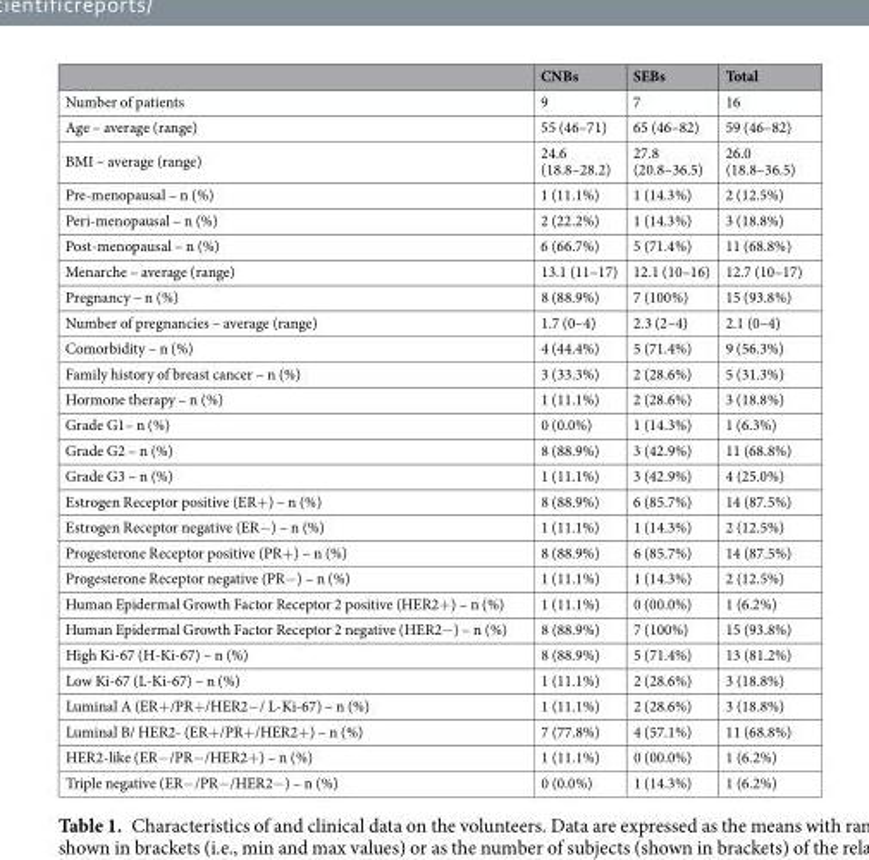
<table><thead><tr><td></td><td>CNBs</td><td>SEBs</td><td>Total</td></tr></thead><tbody><tr><td>Number of patients</td><td>9</td><td>7</td><td>16</td></tr><tr><td>Age – average (range)</td><td>55 (46–71)</td><td>65 (46–82)</td><td>59 (46–82)</td></tr><tr><td>BMI – average (range)</td><td>24.6 (18.8–28.2)</td><td>27.8 (20.8–36.5)</td><td>26.0 (18.8–36.5)</td></tr><tr><td>Pre-menopausal – n (%)</td><td>1 (11.1%)</td><td>1 (14.3%)</td><td>2 (12.5%)</td></tr><tr><td>Peri-menopausal – n (%)</td><td>2 (22.2%)</td><td>1 (14.3%)</td><td>3 (18.8%)</td></tr><tr><td>Post-menopausal – n (%)</td><td>6 (66.7%)</td><td>5 (71.4%)</td><td>11 (68.8%)</td></tr><tr><td>Menarche – average (range)</td><td>13.1 (11–17)</td><td>12.1 (10–16)</td><td>12.7 (10–17)</td></tr><tr><td>Pregnancy – n (%)</td><td>8 (88.9%)</td><td>7 (100%)</td><td>15 (93.8%)</td></tr><tr><td>Number of pregnancies – average (range)</td><td>1.7 (0–4)</td><td>2.3 (2–4)</td><td>2.1 (0–4)</td></tr><tr><td>Comorbidity – n (%)</td><td>4 (44.4%)</td><td>5 (71.4%)</td><td>9 (56.3%)</td></tr><tr><td>Family history of breast cancer – n (%)</td><td>3 (33.3%)</td><td>2 (28.6%)</td><td>5 (31.3%)</td></tr><tr><td>Hormone therapy – n (%)</td><td>1 (11.1%)</td><td>2 (28.6%)</td><td>3 (18.8%)</td></tr><tr><td>Grade G1– n (%)</td><td>0 (0.0%)</td><td>1 (14.3%)</td><td>1 (6.3%)</td></tr><tr><td>Grade G2 – n (%)</td><td>8 (88.9%)</td><td>3 (42.9%)</td><td>11 (68.8%)</td></tr><tr><td>Grade G3 – n (%)</td><td>1 (11.1%)</td><td>3 (42.9%)</td><td>4 (25.0%)</td></tr><tr><td>Estrogen Receptor positive (ER+) – n (%)</td><td>8 (88.9%)</td><td>6 (85.7%)</td><td>14 (87.5%)</td></tr><tr><td>Estrogen Receptor negative (ER−) – n (%)</td><td>1 (11.1%)</td><td>1 (14.3%)</td><td>2 (12.5%)</td></tr><tr><td>Progesterone Receptor positive (PR+) – n (%)</td><td>8 (88.9%)</td><td>6 (85.7%)</td><td>14 (87.5%)</td></tr><tr><td>Progesterone Receptor negative (PR−) – n (%)</td><td>1 (11.1%)</td><td>1 (14.3%)</td><td>2 (12.5%)</td></tr><tr><td>Human Epidermal Growth Factor Receptor 2 positive (HER2+) – n (%)</td><td>1 (11.1%)</td><td>0 (00.0%)</td><td>1 (6.2%)</td></tr><tr><td>Human Epidermal Growth Factor Receptor 2 negative (HER2−) – n (%)</td><td>8 (88.9%)</td><td>7 (100%)</td><td>15 (93.8%)</td></tr><tr><td>High Ki-67 (H-Ki-67) – n (%)</td><td>8 (88.9%)</td><td>5 (71.4%)</td><td>13 (81.2%)</td></tr><tr><td>Low Ki-67 (L-Ki-67) – n (%)</td><td>1 (11.1%)</td><td>2 (28.6%)</td><td>3 (18.8%)</td></tr><tr><td>Luminal A (ER+/PR+/HER2−/ L-Ki-67) – n (%)</td><td>1 (11.1%)</td><td>2 (28.6%)</td><td>3 (18.8%)</td></tr><tr><td>Luminal B/ HER2- (ER+/PR+/HER2+) – n (%)</td><td>7 (77.8%)</td><td>4 (57.1%)</td><td>11 (68.8%)</td></tr><tr><td>HER2-like (ER−/PR−/HER2+) – n (%)</td><td>1 (11.1%)</td><td>0 (00.0%)</td><td>1 (6.2%)</td></tr><tr><td>Triple negative (ER−/PR−/HER2−) – n (%)</td><td>0 (0.0%)</td><td>1 (14.3%)</td><td>1 (6.2%)</td></tr></tbody></table>